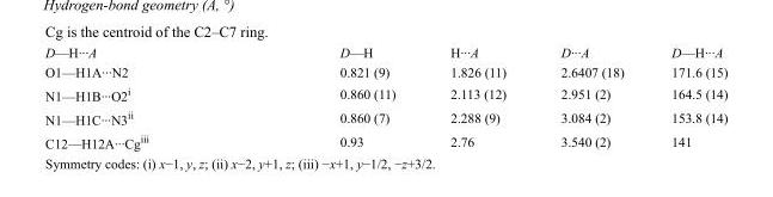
<table><tbody><tr><td>D—H···A</td><td>D—H</td><td>H···A</td><td>D···A</td><td>D—H···A</td></tr><tr><td>O1—H1A···N2</td><td>0.821 (9)</td><td>1.826 (11)</td><td>2.6407 (18)</td><td>171.6 (15)</td></tr><tr><td>N1—H1B···O2<sup>i</sup></td><td>0.860 (11)</td><td>2.113 (12)</td><td>2.951 (2)</td><td>164.5 (14)</td></tr><tr><td>N1—H1C···N3<sup>ii</sup></td><td>0.860 (7)</td><td>2.288 (9)</td><td>3.084 (2)</td><td>153.8 (14)</td></tr><tr><td>C12—H12A···Cg<sup>iii</sup></td><td>0.93</td><td>2.76</td><td>3.540 (2)</td><td>141</td></tr></tbody></table>